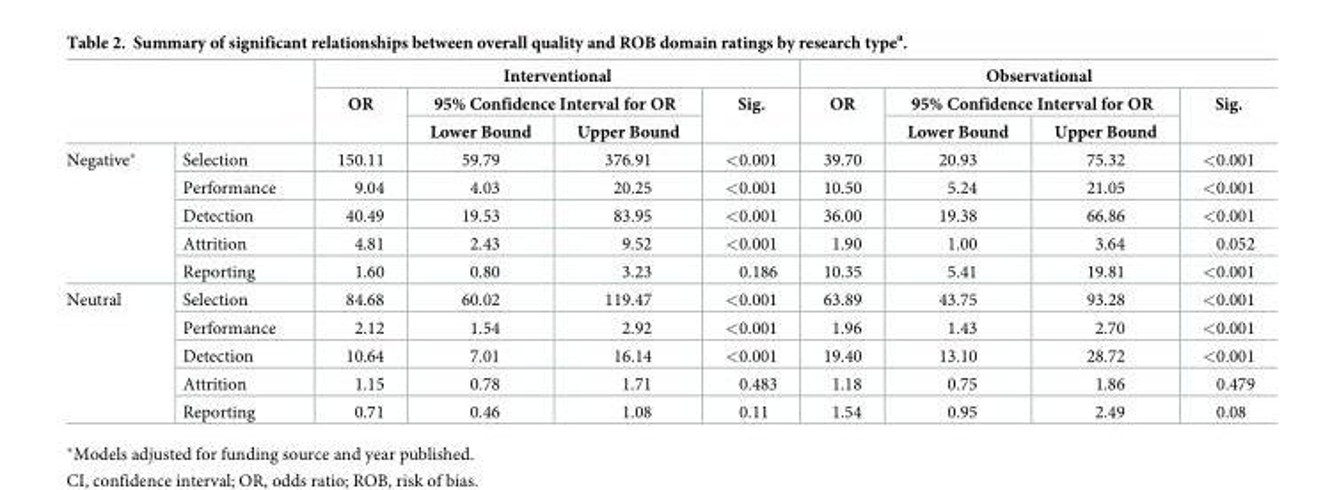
<table><thead><tr><td rowspan="3"></td><td rowspan="3"></td><td colspan="4">Interventional</td><td colspan="4">Observational</td></tr><tr><td rowspan="2">OR</td><td colspan="2">95% Confidence Interval for OR</td><td rowspan="2">Sig.</td><td rowspan="2">OR</td><td colspan="2">95% Confidence Interval for OR</td><td rowspan="2">Sig.</td></tr><tr><td>Lower Bound</td><td>Upper Bound</td><td>Lower Bound</td><td>Upper Bound</td></tr></thead><tbody><tr><td rowspan="5">Negative*</td><td>Selection</td><td>150.11</td><td>59.79</td><td>376.91</td><td>&lt;0.001</td><td>39.70</td><td>20.93</td><td>75.32</td><td>&lt;0.001</td></tr><tr><td>Performance</td><td>9.04</td><td>4.03</td><td>20.25</td><td>&lt;0.001</td><td>10.50</td><td>5.24</td><td>21.05</td><td>&lt;0.001</td></tr><tr><td>Detection</td><td>40.49</td><td>19.53</td><td>83.95</td><td>&lt;0.001</td><td>36.00</td><td>19.38</td><td>66.86</td><td>&lt;0.001</td></tr><tr><td>Attrition</td><td>4.81</td><td>2.43</td><td>9.52</td><td>&lt;0.001</td><td>1.90</td><td>1.00</td><td>3.64</td><td>0.052</td></tr><tr><td>Reporting</td><td>1.60</td><td>0.80</td><td>3.23</td><td>0.186</td><td>10.35</td><td>5.41</td><td>19.81</td><td>&lt;0.001</td></tr><tr><td rowspan="5">Neutral</td><td>Selection</td><td>84.68</td><td>60.02</td><td>119.47</td><td>&lt;0.001</td><td>63.89</td><td>43.75</td><td>93.28</td><td>&lt;0.001</td></tr><tr><td>Performance</td><td>2.12</td><td>1.54</td><td>2.92</td><td>&lt;0.001</td><td>1.96</td><td>1.43</td><td>2.70</td><td>&lt;0.001</td></tr><tr><td>Detection</td><td>10.64</td><td>7.01</td><td>16.14</td><td>&lt;0.001</td><td>19.40</td><td>13.10</td><td>28.72</td><td>&lt;0.001</td></tr><tr><td>Attrition</td><td>1.15</td><td>0.78</td><td>1.71</td><td>0.483</td><td>1.18</td><td>0.75</td><td>1.86</td><td>0.479</td></tr><tr><td>Reporting</td><td>0.71</td><td>0.46</td><td>1.08</td><td>0.11</td><td>1.54</td><td>0.95</td><td>2.49</td><td>0.08</td></tr></tbody></table>